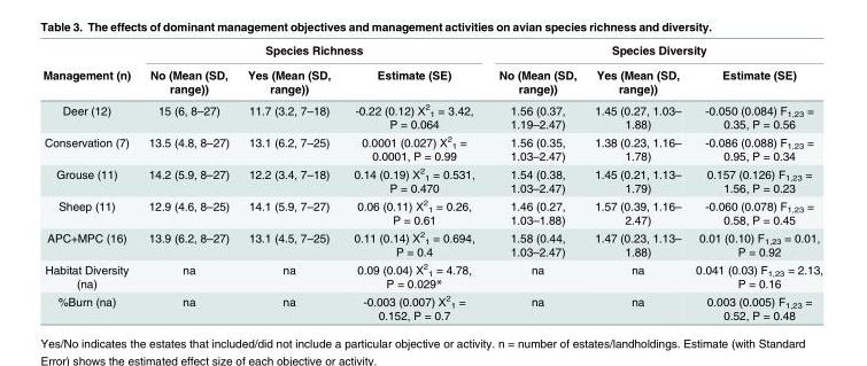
<table><thead><tr><td rowspan="2">Management (n)</td><td colspan="3">Species Richness</td><td colspan="3">Species Diversity</td></tr><tr><td>No (Mean (SD, range))</td><td>Yes (Mean (SD, range))</td><td>Estimate (SE)</td><td>No (Mean (SD, range))</td><td>Yes (Mean (SD, range))</td><td>Estimate (SE)</td></tr></thead><tbody><tr><td>Deer (12)</td><td>15 (6, 8–27)</td><td>11.7 (3.2, 7–18)</td><td>-0.22 (0.12) Χ<sup>2</sup> <sub>1</sub> = 3.42, P = 0.064</td><td>1.56 (0.37, 1.19–2.47)</td><td>1.45 (0.27, 1.03– 1.88)</td><td>-0.050 (0.084) F<sub>1,23</sub> = 0.35, P = 0.56</td></tr><tr><td>Conservation (7)</td><td>13.5 (4.8, 8–27)</td><td>13.1 (6.2, 7–25)</td><td>0.0001 (0.027) Χ<sup>2</sup> <sub>1</sub> = 0.0001, P = 0.99</td><td>1.56 (0.35, 1.03–2.47)</td><td>1.38 (0.23, 1.16– 1.78)</td><td>-0.086 (0.088) F<sub>1,23</sub> = 0.95, P = 0.34</td></tr><tr><td>Grouse (11)</td><td>14.2 (5.9, 8–27)</td><td>12.2 (3.4, 7–18)</td><td>0.14 (0.19) Χ<sup>2</sup> <sub>1</sub> = 0.531, P = 0.470</td><td>1.54 (0.38, 1.03–2.47)</td><td>1.45 (0.21, 1.13– 1.79)</td><td>0.157 (0.126) F<sub>1,23</sub> = 1.56, P = 0.23</td></tr><tr><td>Sheep (11)</td><td>12.9 (4.6, 8–25)</td><td>14.1 (5.9, 7–27)</td><td>0.06 (0.11) Χ<sup>2</sup> <sub>1</sub> = 0.26, P = 0.61</td><td>1.46 (0.27, 1.03–1.88)</td><td>1.57 (0.39, 1.16– 2.47)</td><td>-0.060 (0.078) F<sub>1,23</sub> = 0.58, P = 0.45</td></tr><tr><td>APC+MPC (16)</td><td>13.9 (6.2, 8–27)</td><td>13.1 (4.5, 7–25)</td><td>0.11 (0.14) Χ<sup>2</sup> <sub>1</sub> = 0.694, P = 0.4</td><td>1.58 (0.44, 1.03–2.47)</td><td>1.47 (0.23, 1.13– 1.88)</td><td>0.01 (0.10) F<sub>1,23</sub> = 0.01, P = 0.92</td></tr><tr><td>Habitat Diversity (na)</td><td>na</td><td>na</td><td>0.09 (0.04) Χ<sup>2</sup> <sub>1</sub> = 4.78, P = 0.029*</td><td>na</td><td>na</td><td>0.041 (0.03) F<sub>1,23</sub> = 2.13, P = 0.16</td></tr><tr><td>%Burn (na)</td><td>na</td><td>na</td><td>-0.003 (0.007) Χ<sup>2</sup> <sub>1</sub> = 0.152, P = 0.7</td><td>na</td><td>na</td><td>0.003 (0.005) F<sub>1,23</sub> = 0.52, P = 0.48</td></tr></tbody></table>